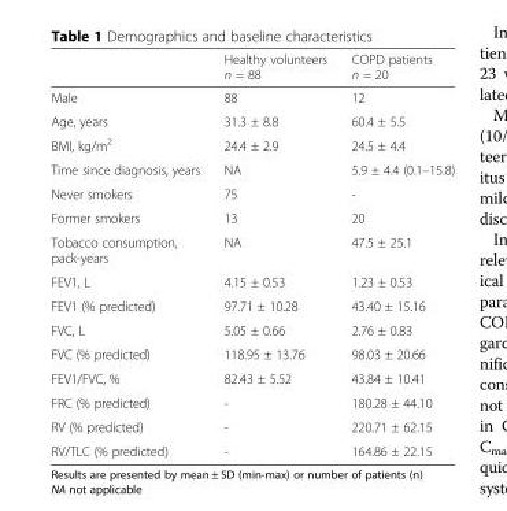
<table><thead><tr><td></td><td>Healthy volunteers n = 88</td><td>COPD patients n = 20</td></tr></thead><tbody><tr><td>Male</td><td>88</td><td>12</td></tr><tr><td>Age, years</td><td>31.3 ± 8.8</td><td>60.4 ± 5.5</td></tr><tr><td>BMI, kg/m<sup>2</sup></td><td>24.4 ± 2.9</td><td>24.5 ± 4.4</td></tr><tr><td>Time since diagnosis, years</td><td>NA</td><td>5.9 ± 4.4 (0.1–15.8)</td></tr><tr><td>Never smokers</td><td>75</td><td>-</td></tr><tr><td>Former smokers</td><td>13</td><td>20</td></tr><tr><td>Tobacco consumption, pack-years</td><td>NA</td><td>47.5 ± 25.1</td></tr><tr><td>FEV1, L</td><td>4.15 ± 0.53</td><td>1.23 ± 0.53</td></tr><tr><td>FEV1 (% predicted)</td><td>97.71 ± 10.28</td><td>43.40 ± 15.16</td></tr><tr><td>FVC, L</td><td>5.05 ± 0.66</td><td>2.76 ± 0.83</td></tr><tr><td>FVC (% predicted)</td><td>118.95 ± 13.76</td><td>98.03 ± 20.66</td></tr><tr><td>FEV1/FVC, %</td><td>82.43 ± 5.52</td><td>43.84 ± 10.41</td></tr><tr><td>FRC (% predicted)</td><td>-</td><td>180.28 ± 44.10</td></tr><tr><td>RV (% predicted)</td><td>-</td><td>220.71 ± 62.15</td></tr><tr><td>RV/TLC (% predicted)</td><td>-</td><td>164.86 ± 22.15</td></tr></tbody></table>